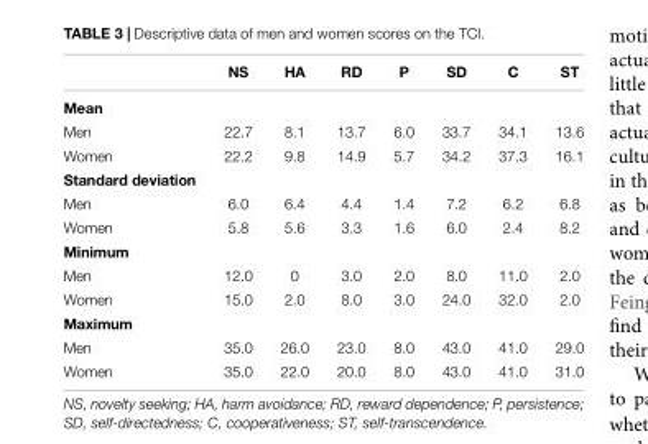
<table><thead><tr><td></td><td>NS</td><td>HA</td><td>RD</td><td>P</td><td>SD</td><td>C</td><td>ST</td></tr></thead><tbody><tr><td colspan="8">Mean</td></tr><tr><td>Men</td><td>22.7</td><td>8.1</td><td>13.7</td><td>6.0</td><td>33.7</td><td>34.1</td><td>13.6</td></tr><tr><td>Women</td><td>22.2</td><td>9.8</td><td>14.9</td><td>5.7</td><td>34.2</td><td>37.3</td><td>16.1</td></tr><tr><td colspan="8">Standard deviation</td></tr><tr><td>Men</td><td>6.0</td><td>6.4</td><td>4.4</td><td>1.4</td><td>7.2</td><td>6.2</td><td>6.8</td></tr><tr><td>Women</td><td>5.8</td><td>5.6</td><td>3.3</td><td>1.6</td><td>6.0</td><td>2.4</td><td>8.2</td></tr><tr><td colspan="8">Minimum</td></tr><tr><td>Men</td><td>12.0</td><td>0</td><td>3.0</td><td>2.0</td><td>8.0</td><td>11.0</td><td>2.0</td></tr><tr><td>Women</td><td>15.0</td><td>2.0</td><td>8.0</td><td>3.0</td><td>24.0</td><td>32.0</td><td>2.0</td></tr><tr><td colspan="8">Maximum</td></tr><tr><td>Men</td><td>35.0</td><td>26.0</td><td>23.0</td><td>8.0</td><td>43.0</td><td>41.0</td><td>29.0</td></tr><tr><td>Women</td><td>35.0</td><td>22.0</td><td>20.0</td><td>8.0</td><td>43.0</td><td>41.0</td><td>31.0</td></tr></tbody></table>